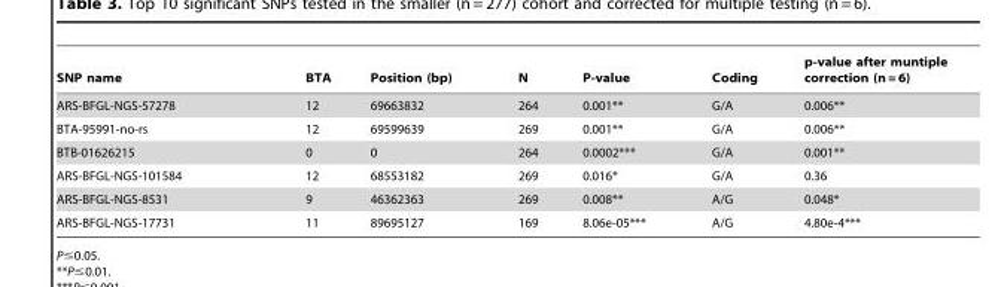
<table><thead><tr><td>SNP name</td><td>BTA</td><td>Position (bp)</td><td>N</td><td>P-value</td><td>Coding</td><td>p-value after muntiple correction (n = 6)</td></tr></thead><tbody><tr><td>ARS-BFGL-NGS-57278</td><td>12</td><td>69663832</td><td>264</td><td>0.001**</td><td>G/A</td><td>0.006**</td></tr><tr><td>BTA-95991-no-rs</td><td>12</td><td>69599639</td><td>269</td><td>0.001**</td><td>G/A</td><td>0.006**</td></tr><tr><td>BTB-01626215</td><td>0</td><td>0</td><td>264</td><td>0.0002***</td><td>G/A</td><td>0.001**</td></tr><tr><td>ARS-BFGL-NGS-101584</td><td>12</td><td>68553182</td><td>269</td><td>0.016*</td><td>G/A</td><td>0.36</td></tr><tr><td>ARS-BFGL-NGS-8531</td><td>9</td><td>46362363</td><td>269</td><td>0.008**</td><td>A/G</td><td>0.048*</td></tr><tr><td>ARS-BFGL-NGS-17731</td><td>11</td><td>89695127</td><td>169</td><td>8.06e-05***</td><td>A/G</td><td>4.80e-4***</td></tr></tbody></table>